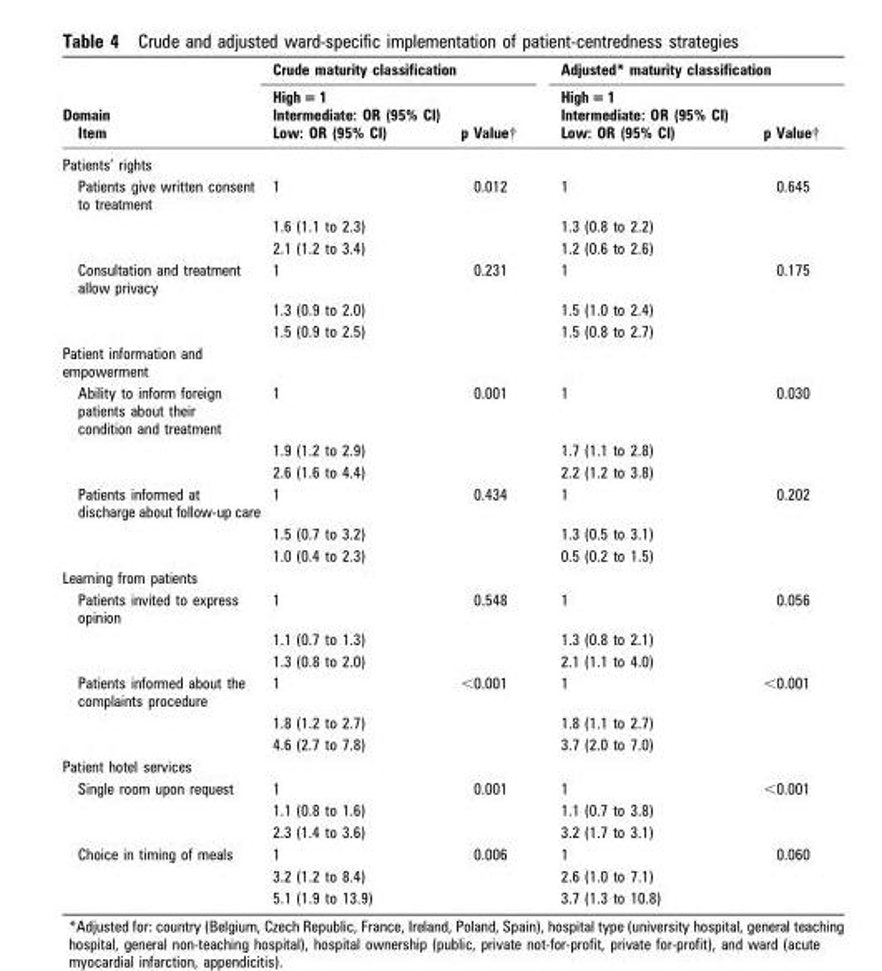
<table><thead><tr><td rowspan="2">Domain Item</td><td colspan="2">Crude maturity classification</td><td colspan="2">Adjusted* maturity classification</td></tr><tr><td>High = 1 Intermediate: OR (95% CI) Low: OR (95% CI)</td><td>p Value†</td><td>High = 1 Intermediate: OR (95% CI) Low: OR (95% CI)</td><td>p Value†</td></tr></thead><tbody><tr><td colspan="5">Patients’ rights</td></tr><tr><td rowspan="3">Patients give written consent to treatment</td><td>1</td><td>0.012</td><td>1</td><td>0.645</td></tr><tr><td>1.6 (1.1 to 2.3)</td><td></td><td>1.3 (0.8 to 2.2)</td><td></td></tr><tr><td>2.1 (1.2 to 3.4)</td><td></td><td>1.2 (0.6 to 2.6)</td><td></td></tr><tr><td rowspan="3">Consultation and treatment allow privacy</td><td>1</td><td>0.231</td><td>1</td><td>0.175</td></tr><tr><td>1.3 (0.9 to 2.0)</td><td></td><td>1.5 (1.0 to 2.4)</td><td></td></tr><tr><td>1.5 (0.9 to 2.5)</td><td></td><td>1.5 (0.8 to 2.7)</td><td></td></tr><tr><td colspan="5">Patient information and empowerment</td></tr><tr><td rowspan="3">Ability to inform foreign patients about their condition and treatment</td><td>1</td><td>0.001</td><td>1</td><td>0.030</td></tr><tr><td>1.9 (1.2 to 2.9)</td><td></td><td>1.7 (1.1 to 2.8)</td><td></td></tr><tr><td>2.6 (1.6 to 4.4)</td><td></td><td>2.2 (1.2 to 3.8)</td><td></td></tr><tr><td rowspan="3">Patients informed at discharge about follow-up care</td><td>1</td><td>0.434</td><td>1</td><td>0.202</td></tr><tr><td>1.5 (0.7 to 3.2)</td><td></td><td>1.3 (0.5 to 3.1)</td><td></td></tr><tr><td>1.0 (0.4 to 2.3)</td><td></td><td>0.5 (0.2 to 1.5)</td><td></td></tr><tr><td colspan="5">Learning from patients</td></tr><tr><td rowspan="3">Patients invited to express opinion</td><td>1</td><td>0.548</td><td>1</td><td>0.056</td></tr><tr><td>1.1 (0.7 to 1.3)</td><td></td><td>1.3 (0.8 to 2.1)</td><td></td></tr><tr><td>1.3 (0.8 to 2.0)</td><td></td><td>2.1 (1.1 to 4.0)</td><td></td></tr><tr><td rowspan="3">Patients informed about the complaints procedure</td><td>1</td><td>&lt;0.001</td><td>1</td><td>&lt;0.001</td></tr><tr><td>1.8 (1.2 to 2.7)</td><td></td><td>1.8 (1.1 to 2.7)</td><td></td></tr><tr><td>4.6 (2.7 to 7.8)</td><td></td><td>3.7 (2.0 to 7.0)</td><td></td></tr><tr><td colspan="5">Patient hotel services</td></tr><tr><td rowspan="3">Single room upon request</td><td>1</td><td>0.001</td><td>1</td><td>&lt;0.001</td></tr><tr><td>1.1 (0.8 to 1.6)</td><td></td><td>1.1 (0.7 to 3.8)</td><td></td></tr><tr><td>2.3 (1.4 to 3.6)</td><td></td><td>3.2 (1.7 to 3.1)</td><td></td></tr><tr><td rowspan="3">Choice in timing of meals</td><td>1</td><td>0.006</td><td>1</td><td>0.060</td></tr><tr><td>3.2 (1.2 to 8.4)</td><td></td><td>2.6 (1.0 to 7.1)</td><td></td></tr><tr><td>5.1 (1.9 to 13.9)</td><td></td><td>3.7 (1.3 to 10.8)</td><td></td></tr></tbody></table>